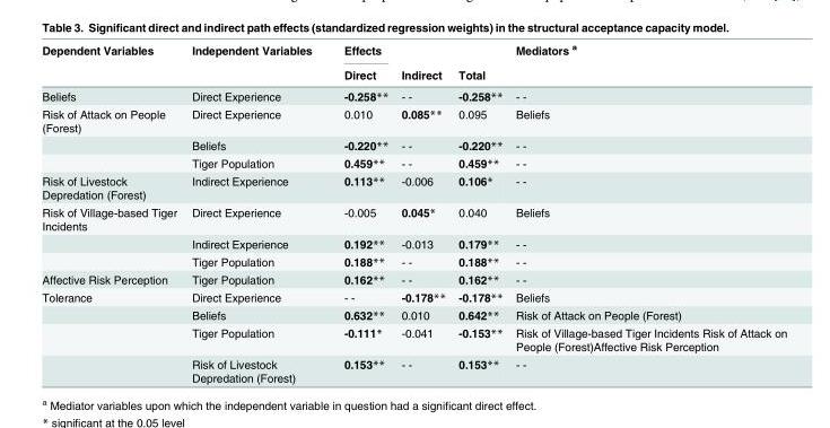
<table><thead><tr><td rowspan="2">Dependent Variables</td><td rowspan="2">Independent Variables</td><td rowspan="2">Effects Direct</td><td rowspan="2">Indirect</td><td rowspan="2">Total</td><td rowspan="2">Mediators <sup>a</sup></td></tr><tr></tr></thead><tbody><tr><td>Beliefs</td><td>Direct Experience</td><td>-0.258**</td><td>- -</td><td>-0.258**</td><td>- -</td></tr><tr><td rowspan="3">Risk of Attack on People (Forest)</td><td>Direct Experience</td><td>0.010</td><td>0.085**</td><td>0.095</td><td>Beliefs</td></tr><tr><td>Beliefs</td><td>-0.220**</td><td>- -</td><td>-0.220**</td><td>- -</td></tr><tr><td>Tiger Population</td><td>0.459**</td><td>- -</td><td>0.459**</td><td>- -</td></tr><tr><td>Risk of Livestock Depredation (Forest)</td><td>Indirect Experience</td><td>0.113**</td><td>-0.006</td><td>0.106*</td><td>- -</td></tr><tr><td rowspan="3">Risk of Village-based Tiger Incidents</td><td>Direct Experience</td><td>-0.005</td><td>0.045*</td><td>0.040</td><td>Beliefs</td></tr><tr><td>Indirect Experience</td><td>0.192**</td><td>-0.013</td><td>0.179**</td><td>- -</td></tr><tr><td>Tiger Population</td><td>0.188**</td><td>- -</td><td>0.188**</td><td>- -</td></tr><tr><td>Affective Risk Perception</td><td>Tiger Population</td><td>0.162**</td><td>- -</td><td>0.162**</td><td>- -</td></tr><tr><td rowspan="4">Tolerance</td><td>Direct Experience</td><td>- -</td><td>-0.178**</td><td>-0.178**</td><td>Beliefs</td></tr><tr><td>Beliefs</td><td>0.632**</td><td>0.010</td><td>0.642**</td><td>Risk of Attack on People (Forest)</td></tr><tr><td>Tiger Population</td><td>-0.111*</td><td>-0.041</td><td>-0.153**</td><td>Risk of Village-based Tiger Incidents Risk of Attack on People (Forest)Affective Risk Perception</td></tr><tr><td>Risk of Livestock Depredation (Forest)</td><td>0.153**</td><td>- -</td><td>0.153**</td><td>- -</td></tr></tbody></table>